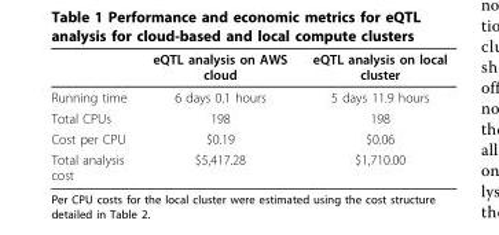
<table><thead><tr><td></td><td>eQTL analysis on AWS cloud</td><td>eQTL analysis on local cluster</td></tr></thead><tbody><tr><td>Running time</td><td>6 days 0.1 hours</td><td>5 days 11.9 hours</td></tr><tr><td>Total CPUs</td><td>198</td><td>198</td></tr><tr><td>Cost per CPU</td><td>$0.19</td><td>$0.06</td></tr><tr><td>Total analysis cost</td><td>$5,417.28</td><td>$1,710.00</td></tr></tbody></table>